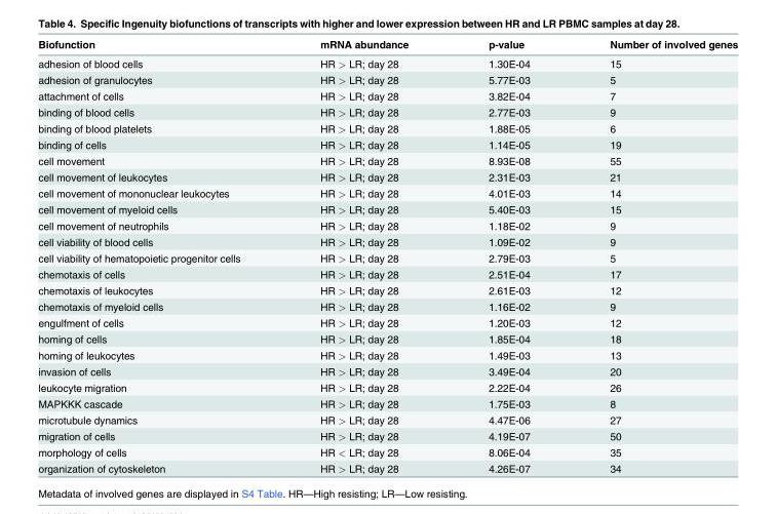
<table><thead><tr><td>Biofunction</td><td>mRNA abundance</td><td>p-value</td><td>Number of involved genes</td></tr></thead><tbody><tr><td>adhesion of blood cells</td><td>HR &gt; LR; day 28</td><td>1.30E-04</td><td>15</td></tr><tr><td>adhesion of granulocytes</td><td>HR &gt; LR; day 28</td><td>5.77E-03</td><td>5</td></tr><tr><td>attachment of cells</td><td>HR &gt; LR; day 28</td><td>3.82E-04</td><td>7</td></tr><tr><td>binding of blood cells</td><td>HR &gt; LR; day 28</td><td>2.77E-03</td><td>9</td></tr><tr><td>binding of blood platelets</td><td>HR &gt; LR; day 28</td><td>1.88E-05</td><td>6</td></tr><tr><td>binding of cells</td><td>HR &gt; LR; day 28</td><td>1.14E-05</td><td>19</td></tr><tr><td>cell movement</td><td>HR &gt; LR; day 28</td><td>8.93E-08</td><td>55</td></tr><tr><td>cell movement of leukocytes</td><td>HR &gt; LR; day 28</td><td>2.31E-03</td><td>21</td></tr><tr><td>cell movement of mononuclear leukocytes</td><td>HR &gt; LR; day 28</td><td>4.01E-03</td><td>14</td></tr><tr><td>cell movement of myeloid cells</td><td>HR &gt; LR; day 28</td><td>5.40E-03</td><td>15</td></tr><tr><td>cell movement of neutrophils</td><td>HR &gt; LR; day 28</td><td>1.18E-02</td><td>9</td></tr><tr><td>cell viability of blood cells</td><td>HR &gt; LR; day 28</td><td>1.09E-02</td><td>9</td></tr><tr><td>cell viability of hematopoietic progenitor cells</td><td>HR &gt; LR; day 28</td><td>2.79E-03</td><td>5</td></tr><tr><td>chemotaxis of cells</td><td>HR &gt; LR; day 28</td><td>2.51E-04</td><td>17</td></tr><tr><td>chemotaxis of leukocytes</td><td>HR &gt; LR; day 28</td><td>2.61E-03</td><td>12</td></tr><tr><td>chemotaxis of myeloid cells</td><td>HR &gt; LR; day 28</td><td>1.16E-02</td><td>9</td></tr><tr><td>engulfment of cells</td><td>HR &gt; LR; day 28</td><td>1.20E-03</td><td>12</td></tr><tr><td>homing of cells</td><td>HR &gt; LR; day 28</td><td>1.85E-04</td><td>18</td></tr><tr><td>homing of leukocytes</td><td>HR &gt; LR; day 28</td><td>1.49E-03</td><td>13</td></tr><tr><td>invasion of cells</td><td>HR &gt; LR; day 28</td><td>3.49E-04</td><td>20</td></tr><tr><td>leukocyte migration</td><td>HR &gt; LR; day 28</td><td>2.22E-04</td><td>26</td></tr><tr><td>MAPKKK cascade</td><td>HR &gt; LR; day 28</td><td>1.75E-03</td><td>8</td></tr><tr><td>microtubule dynamics</td><td>HR &gt; LR; day 28</td><td>4.47E-06</td><td>27</td></tr><tr><td>migration of cells</td><td>HR &gt; LR; day 28</td><td>4.19E-07</td><td>50</td></tr><tr><td>morphology of cells</td><td>HR &lt; LR; day 28</td><td>8.06E-04</td><td>35</td></tr><tr><td>organization of cytoskeleton</td><td>HR &gt; LR; day 28</td><td>4.26E-07</td><td>34</td></tr></tbody></table>